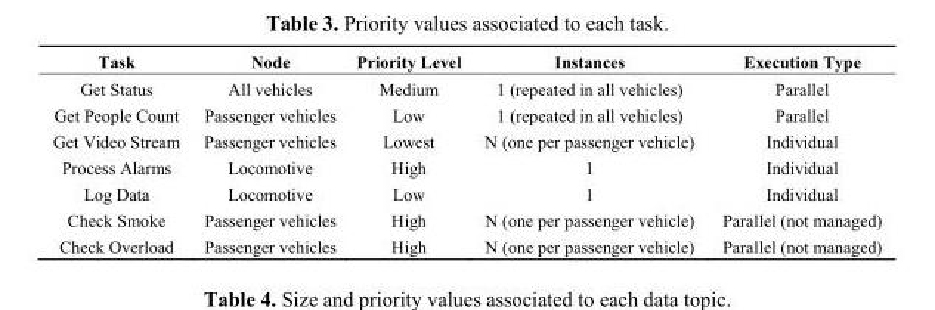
<table><thead><tr><td>Task</td><td>Node</td><td>Priority Level</td><td>Instances</td><td>Execution Type</td></tr></thead><tbody><tr><td>Get Status</td><td>All vehicles</td><td>Medium</td><td>1 (repeated in all vehicles)</td><td>Parallel</td></tr><tr><td>Get People Count</td><td>Passenger vehicles</td><td>Low</td><td>1 (repeated in all vehicles)</td><td>Parallel</td></tr><tr><td>Get Video Stream</td><td>Passenger vehicles</td><td>Lowest</td><td>N (one per passenger vehicle)</td><td>Individual</td></tr><tr><td>Process Alarms</td><td>Locomotive</td><td>High</td><td>1</td><td>Individual</td></tr><tr><td>Log Data</td><td>Locomotive</td><td>Low</td><td>1</td><td>Individual</td></tr><tr><td>Check Smoke</td><td>Passenger vehicles</td><td>High</td><td>N (one per passenger vehicle)</td><td>Parallel (not managed)</td></tr><tr><td>Check Overload</td><td>Passenger vehicles</td><td>High</td><td>N (one per passenger vehicle)</td><td>Parallel (not managed)</td></tr></tbody></table>